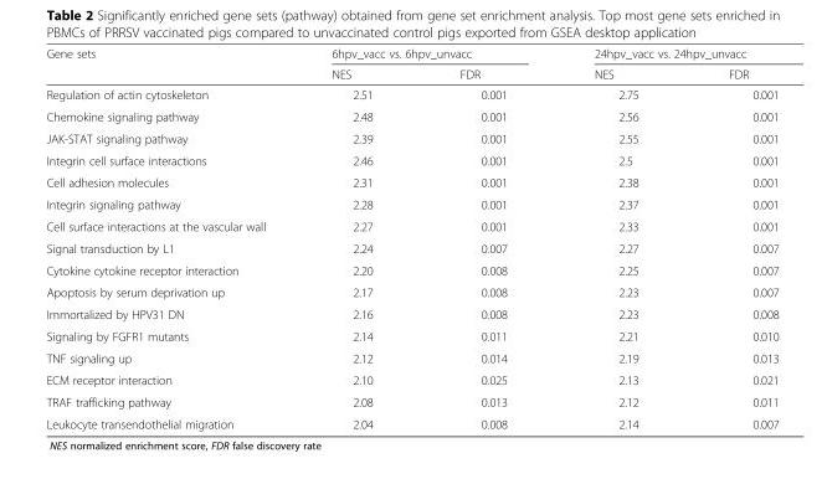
<table><thead><tr><td rowspan="2">Gene sets</td><td colspan="2">6hpv_vacc vs. 6hpv_unvacc</td><td colspan="2">24hpv_vacc vs. 24hpv_unvacc</td></tr><tr><td>NES</td><td>FDR</td><td>NES</td><td>FDR</td></tr></thead><tbody><tr><td>Regulation of actin cytoskeleton</td><td>2.51</td><td>0.001</td><td>2.75</td><td>0.001</td></tr><tr><td>Chemokine signaling pathway</td><td>2.48</td><td>0.001</td><td>2.56</td><td>0.001</td></tr><tr><td>JAK-STAT signaling pathway</td><td>2.39</td><td>0.001</td><td>2.55</td><td>0.001</td></tr><tr><td>Integrin cell surface interactions</td><td>2.46</td><td>0.001</td><td>2.5</td><td>0.001</td></tr><tr><td>Cell adhesion molecules</td><td>2.31</td><td>0.001</td><td>2.38</td><td>0.001</td></tr><tr><td>Integrin signaling pathway</td><td>2.28</td><td>0.001</td><td>2.37</td><td>0.001</td></tr><tr><td>Cell surface interactions at the vascular wall</td><td>2.27</td><td>0.001</td><td>2.33</td><td>0.001</td></tr><tr><td>Signal transduction by L1</td><td>2.24</td><td>0.007</td><td>2.27</td><td>0.007</td></tr><tr><td>Cytokine cytokine receptor interaction</td><td>2.20</td><td>0.008</td><td>2.25</td><td>0.007</td></tr><tr><td>Apoptosis by serum deprivation up</td><td>2.17</td><td>0.008</td><td>2.23</td><td>0.007</td></tr><tr><td>Immortalized by HPV31 DN</td><td>2.16</td><td>0.008</td><td>2.23</td><td>0.008</td></tr><tr><td>Signaling by FGFR1 mutants</td><td>2.14</td><td>0.011</td><td>2.21</td><td>0.010</td></tr><tr><td>TNF signaling up</td><td>2.12</td><td>0.014</td><td>2.19</td><td>0.013</td></tr><tr><td>ECM receptor interaction</td><td>2.10</td><td>0.025</td><td>2.13</td><td>0.021</td></tr><tr><td>TRAF trafficking pathway</td><td>2.08</td><td>0.013</td><td>2.12</td><td>0.011</td></tr><tr><td>Leukocyte transendothelial migration</td><td>2.04</td><td>0.008</td><td>2.14</td><td>0.007</td></tr></tbody></table>